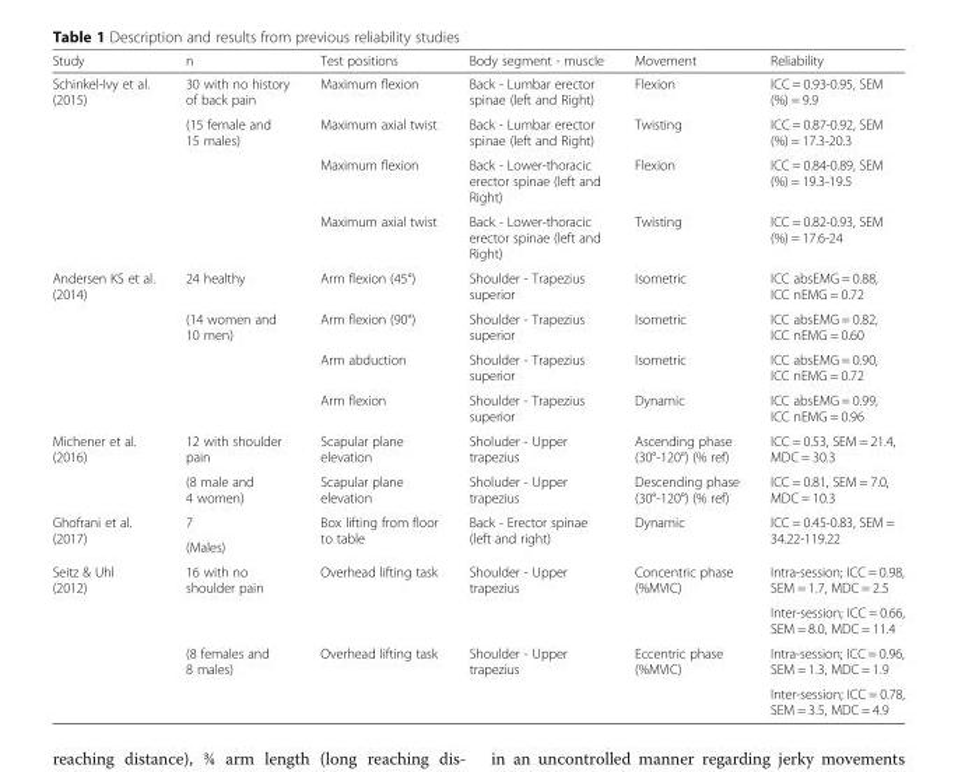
<table><thead><tr><td>Study</td><td>n</td><td>Test positions</td><td>Body segment - muscle</td><td>Movement</td><td>Reliability</td></tr></thead><tbody><tr><td rowspan="4">Schinkel-Ivy et al. (2015)</td><td>30 with no history of back pain</td><td>Maximum flexion</td><td>Back - Lumbar erector spinae (left and Right)</td><td>Flexion</td><td>ICC = 0.93-0.95, SEM (%) = 9.9</td></tr><tr><td rowspan="3">(15 female and 15 males)</td><td>Maximum axial twist</td><td>Back - Lumbar erector spinae (left and Right)</td><td>Twisting</td><td>ICC = 0.87-0.92, SEM (%) = 17.3-20.3</td></tr><tr><td>Maximum flexion</td><td>Back - Lower-thoracic erector spinae (left and Right)</td><td>Flexion</td><td>ICC = 0.84-0.89, SEM (%) = 19.3-19.5</td></tr><tr><td>Maximum axial twist</td><td>Back - Lower-thoracic erector spinae (left and Right)</td><td>Twisting</td><td>ICC = 0.82-0.93, SEM (%) = 17.6-24</td></tr><tr><td rowspan="4">Andersen KS et al. (2014)</td><td>24 healthy</td><td>Arm flexion (45°)</td><td>Shoulder - Trapezius superior</td><td>Isometric</td><td>ICC absEMG = 0.88, ICC nEMG = 0.72</td></tr><tr><td rowspan="3">(14 women and 10 men)</td><td>Arm flexion (90°)</td><td>Shoulder - Trapezius superior</td><td>Isometric</td><td>ICC absEMG = 0.82, ICC nEMG = 0.60</td></tr><tr><td>Arm abduction</td><td>Shoulder - Trapezius superior</td><td>Isometric</td><td>ICC absEMG = 0.90, ICC nEMG = 0.72</td></tr><tr><td>Arm flexion</td><td>Shoulder - Trapezius superior</td><td>Dynamic</td><td>ICC absEMG = 0.99, ICC nEMG = 0.96</td></tr><tr><td rowspan="2">Michener et al. (2016)</td><td>12 with shoulder pain</td><td>Scapular plane elevation</td><td>Sholuder - Upper trapezius</td><td>Ascending phase (30°-120°) (% ref)</td><td>ICC = 0.53, SEM = 21.4, MDC = 30.3</td></tr><tr><td>(8 male and 4 women)</td><td>Scapular plane elevation</td><td>Sholuder - Upper trapezius</td><td>Descending phase (30°-120°) (% ref)</td><td>ICC = 0.81, SEM = 7.0, MDC = 10.3</td></tr><tr><td rowspan="2">Ghofrani et al. (2017)</td><td>7</td><td rowspan="2">Box lifting from floor to table</td><td rowspan="2">Back - Erector spinae (left and right)</td><td rowspan="2">Dynamic</td><td rowspan="2">ICC = 0.45-0.83, SEM = 34.22-119.22</td></tr><tr><td>(Males)</td></tr><tr><td rowspan="4">Seitz &amp; Uhl (2012)</td><td rowspan="2">16 with no shoulder pain</td><td rowspan="2">Overhead lifting task</td><td rowspan="2">Shoulder - Upper trapezius</td><td rowspan="2">Concentric phase (%MVIC)</td><td>Intra-session; ICC = 0.98, SEM = 1.7, MDC = 2.5</td></tr><tr><td>Inter-session; ICC = 0.66, SEM = 8.0, MDC = 11.4</td></tr><tr><td rowspan="2">(8 females and 8 males)</td><td rowspan="2">Overhead lifting task</td><td rowspan="2">Shoulder - Upper trapezius</td><td rowspan="2">Eccentric phase (%MVIC)</td><td>Intra-session; ICC = 0.96, SEM = 1.3, MDC = 1.9</td></tr><tr><td>Inter-session; ICC = 0.78, SEM = 3.5, MDC = 4.9</td></tr></tbody></table>